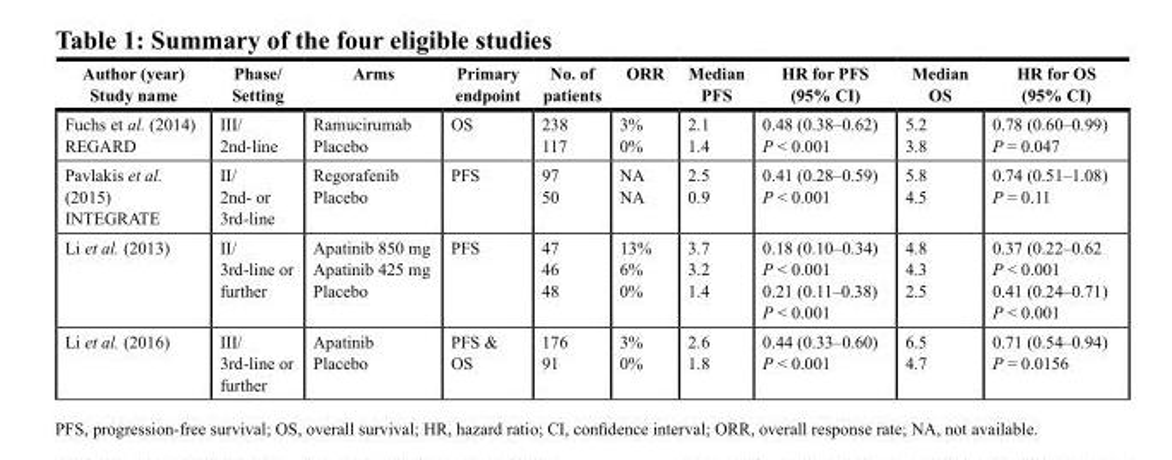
<table><thead><tr><td>Author (year) Study name</td><td>Phase/ Setting</td><td>Arms</td><td>Primary endpoint</td><td>No. of patients</td><td>ORR</td><td>Median PFS</td><td>HR for PFS (95% CI)</td><td>Median OS</td><td>HR for OS (95% CI)</td></tr></thead><tbody><tr><td>Fuchs et al. (2014) REGARD</td><td>III/ 2nd-line</td><td>Ramucirumab Placebo</td><td>OS</td><td>238 117</td><td>3% 0%</td><td>2.1 1.4</td><td>0.48 (0.38–0.62) P &lt; 0.001</td><td>5.2 3.8</td><td>0.78 (0.60–0.99) P = 0.047</td></tr><tr><td>Pavlakis et al. (2015) INTEGRATE</td><td>II/ 2nd- or 3rd-line</td><td>Regorafenib Placebo</td><td>PFS</td><td>97 50</td><td>NA NA</td><td>2.5 0.9</td><td>0.41 (0.28–0.59) P &lt; 0.001</td><td>5.8 4.5</td><td>0.74 (0.51–1.08) P = 0.11</td></tr><tr><td>Li et al. (2013)</td><td>II/ 3rd-line or further</td><td>Apatinib 850 mg Apatinib 425 mg Placebo</td><td>PFS</td><td>47 46 48</td><td>13% 6% 0%</td><td>3.7 3.2 1.4</td><td>0.18 (0.10–0.34) P &lt; 0.001 0.21 (0.11–0.38) P &lt; 0.001</td><td>4.8 4.3 2.5</td><td>0.37 (0.22–0.62 P &lt; 0.001 0.41 (0.24–0.71) P &lt; 0.001</td></tr><tr><td>Li et al. (2016)</td><td>III/ 3rd-line or further</td><td>Apatinib Placebo</td><td>PFS &amp; OS</td><td>176 91</td><td>3% 0%</td><td>2.6 1.8</td><td>0.44 (0.33–0.60) P &lt; 0.001</td><td>6.5 4.7</td><td>0.71 (0.54–0.94) P = 0.0156</td></tr></tbody></table>